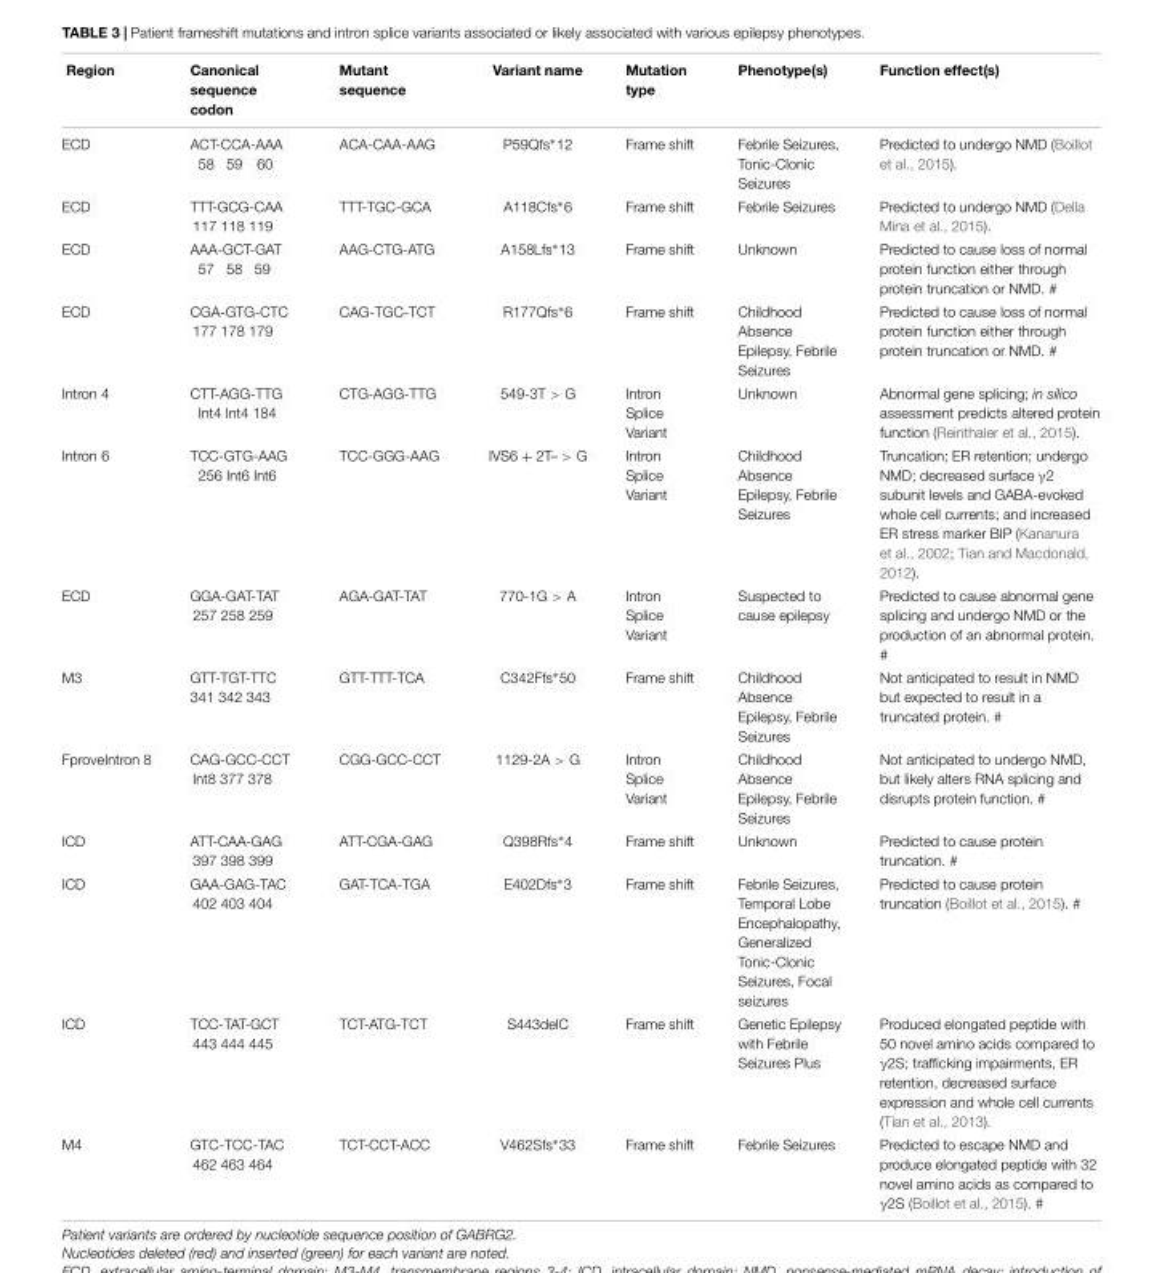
<table><thead><tr><td>Region</td><td>Canonical sequence codon</td><td>Mutant sequence</td><td>Variant name</td><td>Mutation type</td><td>Phenotype(s)</td><td>Function effect(s)</td></tr></thead><tbody><tr><td>ECD</td><td>ACT-CCA-AAA 58 59 60</td><td>ACA-CAA-AAG</td><td>P59Qfs∗12</td><td>Frame shift</td><td>Febrile Seizures, Tonic-Clonic Seizures</td><td>Predicted to undergo NMD (Boillot et al., 2015).</td></tr><tr><td>ECD</td><td>TTT-GCG-CAA 117 118 119</td><td>TTT-TGC-GCA</td><td>A118Cfs∗6</td><td>Frame shift</td><td>Febrile Seizures</td><td>Predicted to undergo NMD (Della Mina et al., 2015).</td></tr><tr><td>ECD</td><td>AAA-GCT-GAT 57 58 59</td><td>AAG-CTG-ATG</td><td>A158Lfs∗13</td><td>Frame shift</td><td>Unknown</td><td>Predicted to cause loss of normal protein function either through protein truncation or NMD. #</td></tr><tr><td>ECD</td><td>CGA-GTG-CTC 177 178 179</td><td>CAG-TGC-TCT</td><td>R177Qfs∗6</td><td>Frame shift</td><td>Childhood Absence Epilepsy, Febrile Seizures</td><td>Predicted to cause loss of normal protein function either through protein truncation or NMD. #</td></tr><tr><td>Intron 4</td><td>CTT-AGG-TTG Int4 Int4 184</td><td>CTG-AGG-TTG</td><td>549-3T &gt; G</td><td>Intron Splice Variant</td><td>Unknown</td><td>Abnormal gene splicing; in silico assessment predicts altered protein function (Reinthaler et al., 2015).</td></tr><tr><td>Intron 6</td><td>TCC-GTG-AAG 256 Int6 Int6</td><td>TCC-GGG-AAG</td><td>IVS6 + 2T– &gt; G</td><td>Intron Splice Variant</td><td>Childhood Absence Epilepsy, Febrile Seizures</td><td>Truncation; ER retention; undergo NMD; decreased surface γ2 subunit levels and GABA-evoked whole cell currents; and increased ER stress marker BIP (Kananura et al., 2002; Tian and Macdonald, 2012).</td></tr><tr><td>ECD</td><td>GGA-GAT-TAT 257 258 259</td><td>AGA-GAT-TAT</td><td>770-1G &gt; A</td><td>Intron Splice Variant</td><td>Suspected to cause epilepsy</td><td>Predicted to cause abnormal gene splicing and undergo NMD or the production of an abnormal protein. #</td></tr><tr><td>M3</td><td>GTT-TGT-TTC 341 342 343</td><td>GTT-TTT-TCA</td><td>C342Ffs∗50</td><td>Frame shift</td><td>Childhood Absence Epilepsy, Febrile Seizures</td><td>Not anticipated to result in NMD but expected to result in a truncated protein. #</td></tr><tr><td>FproveIntron 8</td><td>CAG-GCC-CCT Int8 377 378</td><td>CGG-GCC-CCT</td><td>1129-2A &gt; G</td><td>Intron Splice Variant</td><td>Childhood Absence Epilepsy, Febrile Seizures</td><td>Not anticipated to undergo NMD, but likely alters RNA splicing and disrupts protein function. #</td></tr><tr><td>ICD</td><td>ATT-CAA-GAG 397 398 399</td><td>ATT-CGA-GAG</td><td>Q398Rfs∗4</td><td>Frame shift</td><td>Unknown</td><td>Predicted to cause protein truncation. #</td></tr><tr><td>ICD</td><td>GAA-GAG-TAC 402 403 404</td><td>GAT-TCA-TGA</td><td>E402Dfs∗3</td><td>Frame shift</td><td>Febrile Seizures, Temporal Lobe Encephalopathy, Generalized Tonic-Clonic Seizures, Focal seizures</td><td>Predicted to cause protein truncation (Boillot et al., 2015). #</td></tr><tr><td>ICD</td><td>TCC-TAT-GCT 443 444 445</td><td>TCT-ATG-TCT</td><td>S443delC</td><td>Frame shift</td><td>Genetic Epilepsy with Febrile Seizures Plus</td><td>Produced elongated peptide with 50 novel amino acids compared to γ2S; trafficking impairments, ER retention, decreased surface expression and whole cell currents (Tian et al., 2013).</td></tr><tr><td>M4</td><td>GTC-TCC-TAC 462 463 464</td><td>TCT-CCT-ACC</td><td>V462Sfs∗33</td><td>Frame shift</td><td>Febrile Seizures</td><td>Predicted to escape NMD and produce elongated peptide with 32 novel amino acids as compared to γ2S (Boillot et al., 2015). #</td></tr></tbody></table>